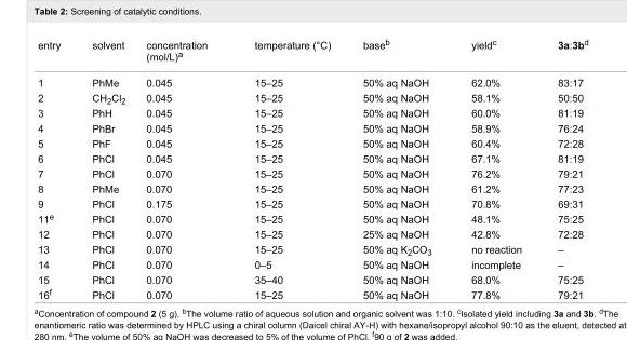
<table><tbody><tr><td>entry</td><td>solvent</td><td>concentration (mol/L)<sup>a</sup></td><td>temperature (°C)</td><td>base<sup>b</sup></td><td>yield<sup>c</sup></td><td>3a:3b<sup>d</sup></td></tr><tr><td>1</td><td>PhMe</td><td>0.045</td><td>15–25</td><td>50% aq NaOH</td><td>62.0%</td><td>83:17</td></tr><tr><td>2</td><td>CH<sub>2</sub>Cl<sub>2</sub></td><td>0.045</td><td>15–25</td><td>50% aq NaOH</td><td>58.1%</td><td>50:50</td></tr><tr><td>3</td><td>PhH</td><td>0.045</td><td>15–25</td><td>50% aq NaOH</td><td>60.0%</td><td>81:19</td></tr><tr><td>4</td><td>PhBr</td><td>0.045</td><td>15–25</td><td>50% aq NaOH</td><td>58.9%</td><td>76:24</td></tr><tr><td>5</td><td>PhF</td><td>0.045</td><td>15–25</td><td>50% aq NaOH</td><td>60.4%</td><td>72:28</td></tr><tr><td>6</td><td>PhCl</td><td>0.045</td><td>15–25</td><td>50% aq NaOH</td><td>67.1%</td><td>81:19</td></tr><tr><td>7</td><td>PhCl</td><td>0.070</td><td>15–25</td><td>50% aq NaOH</td><td>76.2%</td><td>79:21</td></tr><tr><td>8</td><td>PhMe</td><td>0.070</td><td>15–25</td><td>50% aq NaOH</td><td>61.2%</td><td>77:23</td></tr><tr><td>9</td><td>PhCl</td><td>0.175</td><td>15–25</td><td>50% aq NaOH</td><td>70.8%</td><td>69:31</td></tr><tr><td>11<sup>e</sup></td><td>PhCl</td><td>0.070</td><td>15–25</td><td>50% aq NaOH</td><td>48.1%</td><td>75:25</td></tr><tr><td>12</td><td>PhCl</td><td>0.070</td><td>15–25</td><td>25% aq NaOH</td><td>42.8%</td><td>72:28</td></tr><tr><td>13</td><td>PhCl</td><td>0.070</td><td>15–25</td><td>50% aq K<sub>2</sub>CO<sub>3</sub></td><td>no reaction</td><td>–</td></tr><tr><td>14</td><td>PhCl</td><td>0.070</td><td>0–5</td><td>50% aq NaOH</td><td>incomplete</td><td>–</td></tr><tr><td>15</td><td>PhCl</td><td>0.070</td><td>35–40</td><td>50% aq NaOH</td><td>68.0%</td><td>75:25</td></tr><tr><td>16<sup>f</sup></td><td>PhCl</td><td>0.070</td><td>15–25</td><td>50% aq NaOH</td><td>77.8%</td><td>79:21</td></tr></tbody></table>